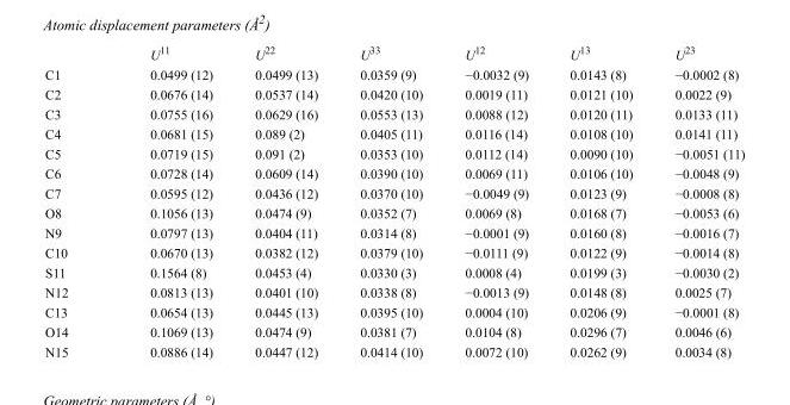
<table><thead><tr><td></td><td>U<sup>11</sup></td><td>U<sup>22</sup></td><td>U<sup>33</sup></td><td>U<sup>12</sup></td><td>U<sup>13</sup></td><td>U<sup>23</sup></td></tr></thead><tbody><tr><td>C1</td><td>0.0499 (12)</td><td>0.0499 (13)</td><td>0.0359 (9)</td><td>−0.0032 (9)</td><td>0.0143 (8)</td><td>−0.0002 (8)</td></tr><tr><td>C2</td><td>0.0676 (14)</td><td>0.0537 (14)</td><td>0.0420 (10)</td><td>0.0019 (11)</td><td>0.0121 (10)</td><td>0.0022 (9)</td></tr><tr><td>C3</td><td>0.0755 (16)</td><td>0.0629 (16)</td><td>0.0553 (13)</td><td>0.0088 (12)</td><td>0.0120 (11)</td><td>0.0133 (11)</td></tr><tr><td>C4</td><td>0.0681 (15)</td><td>0.089 (2)</td><td>0.0405 (11)</td><td>0.0116 (14)</td><td>0.0108 (10)</td><td>0.0141 (11)</td></tr><tr><td>C5</td><td>0.0719 (15)</td><td>0.091 (2)</td><td>0.0353 (10)</td><td>0.0112 (14)</td><td>0.0090 (10)</td><td>−0.0051 (11)</td></tr><tr><td>C6</td><td>0.0728 (14)</td><td>0.0609 (14)</td><td>0.0390 (10)</td><td>0.0069 (11)</td><td>0.0106 (10)</td><td>−0.0048 (9)</td></tr><tr><td>C7</td><td>0.0595 (12)</td><td>0.0436 (12)</td><td>0.0370 (10)</td><td>−0.0049 (9)</td><td>0.0123 (9)</td><td>−0.0008 (8)</td></tr><tr><td>O8</td><td>0.1056 (13)</td><td>0.0474 (9)</td><td>0.0352 (7)</td><td>0.0069 (8)</td><td>0.0168 (7)</td><td>−0.0053 (6)</td></tr><tr><td>N9</td><td>0.0797 (13)</td><td>0.0404 (11)</td><td>0.0314 (8)</td><td>−0.0001 (9)</td><td>0.0160 (8)</td><td>−0.0016 (7)</td></tr><tr><td>C10</td><td>0.0670 (13)</td><td>0.0382 (12)</td><td>0.0379 (10)</td><td>−0.0111 (9)</td><td>0.0122 (9)</td><td>−0.0014 (8)</td></tr><tr><td>S11</td><td>0.1564 (8)</td><td>0.0453 (4)</td><td>0.0330 (3)</td><td>0.0008 (4)</td><td>0.0199 (3)</td><td>−0.0030 (2)</td></tr><tr><td>N12</td><td>0.0813 (13)</td><td>0.0401 (10)</td><td>0.0338 (8)</td><td>−0.0013 (9)</td><td>0.0148 (8)</td><td>0.0025 (7)</td></tr><tr><td>C13</td><td>0.0654 (13)</td><td>0.0445 (13)</td><td>0.0395 (10)</td><td>0.0004 (10)</td><td>0.0206 (9)</td><td>−0.0001 (8)</td></tr><tr><td>O14</td><td>0.1069 (13)</td><td>0.0474 (9)</td><td>0.0381 (7)</td><td>0.0104 (8)</td><td>0.0296 (7)</td><td>0.0046 (6)</td></tr><tr><td>N15</td><td>0.0886 (14)</td><td>0.0447 (12)</td><td>0.0414 (10)</td><td>0.0072 (10)</td><td>0.0262 (9)</td><td>0.0034 (8)</td></tr></tbody></table>